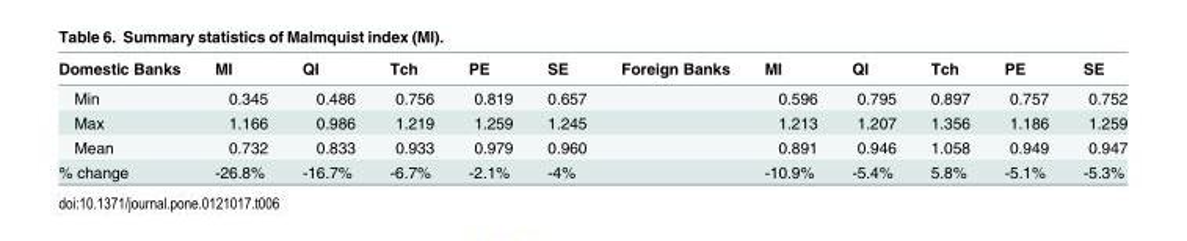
<table><thead><tr><td>Domestic Banks</td><td>MI</td><td>QI</td><td>Tch</td><td>PE</td><td>SE</td><td>Foreign Banks</td><td>MI</td><td>QI</td><td>Tch</td><td>PE</td><td>SE</td></tr></thead><tbody><tr><td>Min</td><td>0.345</td><td>0.486</td><td>0.756</td><td>0.819</td><td>0.657</td><td></td><td>0.596</td><td>0.795</td><td>0.897</td><td>0.757</td><td>0.752</td></tr><tr><td>Max</td><td>1.166</td><td>0.986</td><td>1.219</td><td>1.259</td><td>1.245</td><td></td><td>1.213</td><td>1.207</td><td>1.356</td><td>1.186</td><td>1.259</td></tr><tr><td>Mean</td><td>0.732</td><td>0.833</td><td>0.933</td><td>0.979</td><td>0.960</td><td></td><td>0.891</td><td>0.946</td><td>1.058</td><td>0.949</td><td>0.947</td></tr><tr><td>% change</td><td>-26.8%</td><td>-16.7%</td><td>-6.7%</td><td>-2.1%</td><td>-4%</td><td></td><td>-10.9%</td><td>-5.4%</td><td>5.8%</td><td>-5.1%</td><td>-5.3%</td></tr></tbody></table>